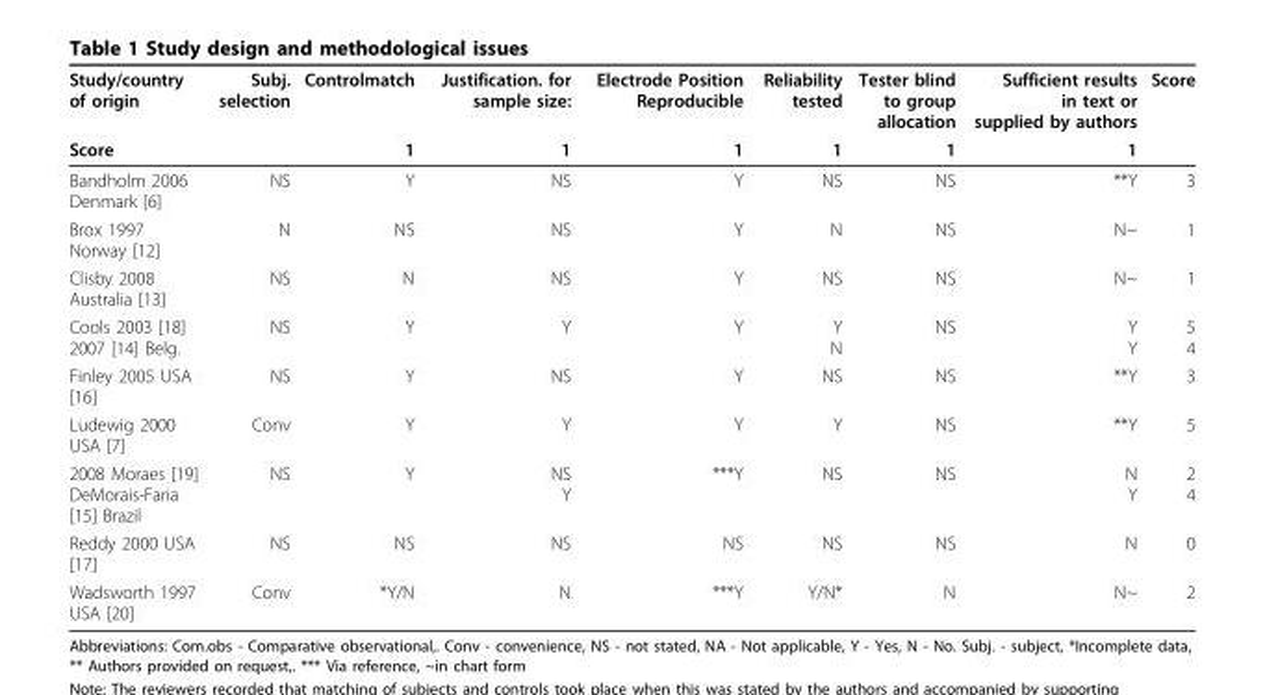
<table><thead><tr><td rowspan="2">Study/country of origin Score</td><td rowspan="2">Subj. selection</td><td rowspan="2">Controlmatch 1</td><td rowspan="2">Justification. for sample size: 1</td><td rowspan="2">Electrode Position Reproducible 1</td><td rowspan="2">Reliability tested 1</td><td rowspan="2">Tester blind to group allocation 1</td><td rowspan="2">Sufficient results in text or supplied by authors 1</td><td rowspan="2">Score</td></tr><tr></tr></thead><tbody><tr><td>Bandholm 2006 Denmark [6]</td><td>NS</td><td>Y</td><td>NS</td><td>Y</td><td>NS</td><td>NS</td><td>**Y</td><td>3</td></tr><tr><td>Brox 1997 Norway [12]</td><td>N</td><td>NS</td><td>NS</td><td>Y</td><td>N</td><td>NS</td><td>N~</td><td>1</td></tr><tr><td>Clisby 2008 Australia [13]</td><td>NS</td><td>N</td><td>NS</td><td>Y</td><td>NS</td><td>NS</td><td>N~</td><td>1</td></tr><tr><td>Cools 2003 [18] 2007 [14] Belg.</td><td>NS</td><td>Y</td><td>Y</td><td>Y</td><td>Y N</td><td>NS</td><td>Y Y</td><td>5 4</td></tr><tr><td>Finley 2005 USA [16]</td><td>NS</td><td>Y</td><td>NS</td><td>Y</td><td>NS</td><td>NS</td><td>**Y</td><td>3</td></tr><tr><td>Ludewig 2000 USA [7]</td><td>Conv</td><td>Y</td><td>Y</td><td>Y</td><td>Y</td><td>NS</td><td>**Y</td><td>5</td></tr><tr><td>2008 Moraes [19] DeMorais-Faria [15] Brazil</td><td>NS</td><td>Y</td><td>NS Y</td><td>***Y</td><td>NS</td><td>NS</td><td>N Y</td><td>2 4</td></tr><tr><td>Reddy 2000 USA [17]</td><td>NS</td><td>NS</td><td>NS</td><td>NS</td><td>NS</td><td>NS</td><td>N</td><td>0</td></tr><tr><td>Wadsworth 1997 USA [20]</td><td>Conv</td><td>*Y/N</td><td>N</td><td>***Y</td><td>Y/N*</td><td>N</td><td>N~</td><td>2</td></tr></tbody></table>